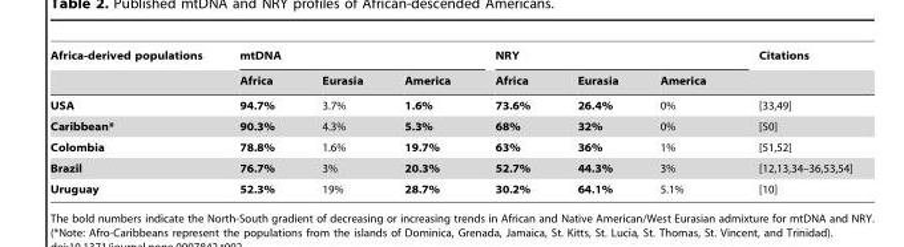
<table><thead><tr><td rowspan="2">Africa-derived populations</td><td colspan="3">mtDNA</td><td colspan="3">NRY</td><td rowspan="2">Citations</td></tr><tr><td>Africa</td><td>Eurasia</td><td>America</td><td>Africa</td><td>Eurasia</td><td>America</td></tr></thead><tbody><tr><td>USA</td><td>94.7%</td><td>3.7%</td><td>1.6%</td><td>73.6%</td><td>26.4%</td><td>0%</td><td>[33,49]</td></tr><tr><td>Caribbean*</td><td>90.3%</td><td>4.3%</td><td>5.3%</td><td>68%</td><td>32%</td><td>0%</td><td>[50]</td></tr><tr><td>Colombia</td><td>78.8%</td><td>1.6%</td><td>19.7%</td><td>63%</td><td>36%</td><td>1%</td><td>[51,52]</td></tr><tr><td>Brazil</td><td>76.7%</td><td>3%</td><td>20.3%</td><td>52.7%</td><td>44.3%</td><td>3%</td><td>[12,13,34–36,53,54]</td></tr><tr><td>Uruguay</td><td>52.3%</td><td>19%</td><td>28.7%</td><td>30.2%</td><td>64.1%</td><td>5.1%</td><td>[10]</td></tr></tbody></table>